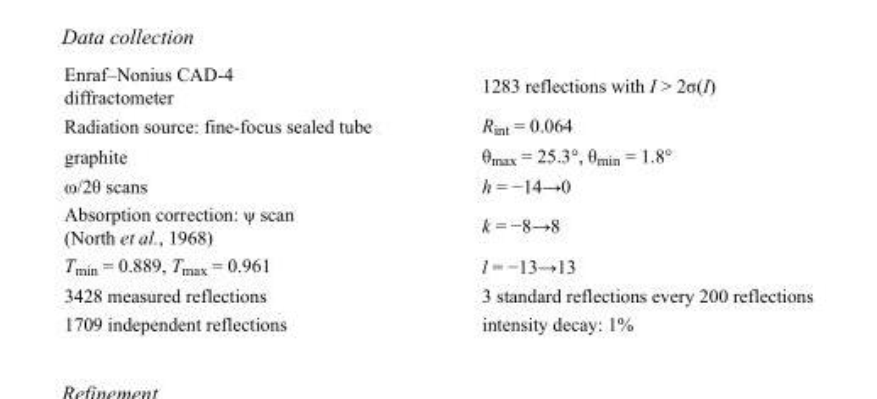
<table><tbody><tr><td>Enraf–Nonius CAD-4 diffractometer</td><td>1283 reflections with I &gt; 2σ(I)</td></tr><tr><td>Radiation source: fine-focus sealed tube</td><td>R<sub>int</sub> = 0.064</td></tr><tr><td>graphite</td><td>θ<sub>max</sub> = 25.3°, θ<sub>min</sub> = 1.8°</td></tr><tr><td>ω/2θ scans</td><td>h = −14→0</td></tr><tr><td>Absorption correction: ψ scan (North et al., 1968)</td><td>k = −8→8</td></tr><tr><td>T<sub>min</sub> = 0.889, T<sub>max</sub> = 0.961</td><td>l = −13→13</td></tr><tr><td>3428 measured reflections</td><td>3 standard reflections every 200 reflections</td></tr><tr><td>1709 independent reflections</td><td>intensity decay: 1%</td></tr></tbody></table>